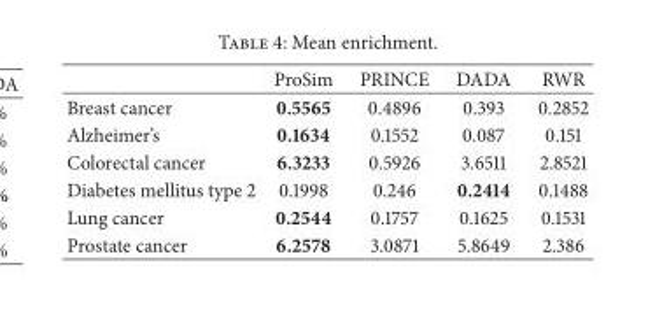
<table><thead><tr><td></td><td>ProSim</td><td>PRINCE</td><td>DADA</td><td>RWR</td></tr></thead><tbody><tr><td>Breast cancer</td><td>0.5565</td><td>0.4896</td><td>0.393</td><td>0.2852</td></tr><tr><td>Alzheimer’s</td><td>0.1634</td><td>0.1552</td><td>0.087</td><td>0.151</td></tr><tr><td>Colorectal cancer</td><td>6.3233</td><td>0.5926</td><td>3.6511</td><td>2.8521</td></tr><tr><td>Diabetes mellitus type 2</td><td>0.1998</td><td>0.246</td><td>0.2414</td><td>0.1488</td></tr><tr><td>Lung cancer</td><td>0.2544</td><td>0.1757</td><td>0.1625</td><td>0.1531</td></tr><tr><td>Prostate cancer</td><td>6.2578</td><td>3.0871</td><td>5.8649</td><td>2.386</td></tr></tbody></table>